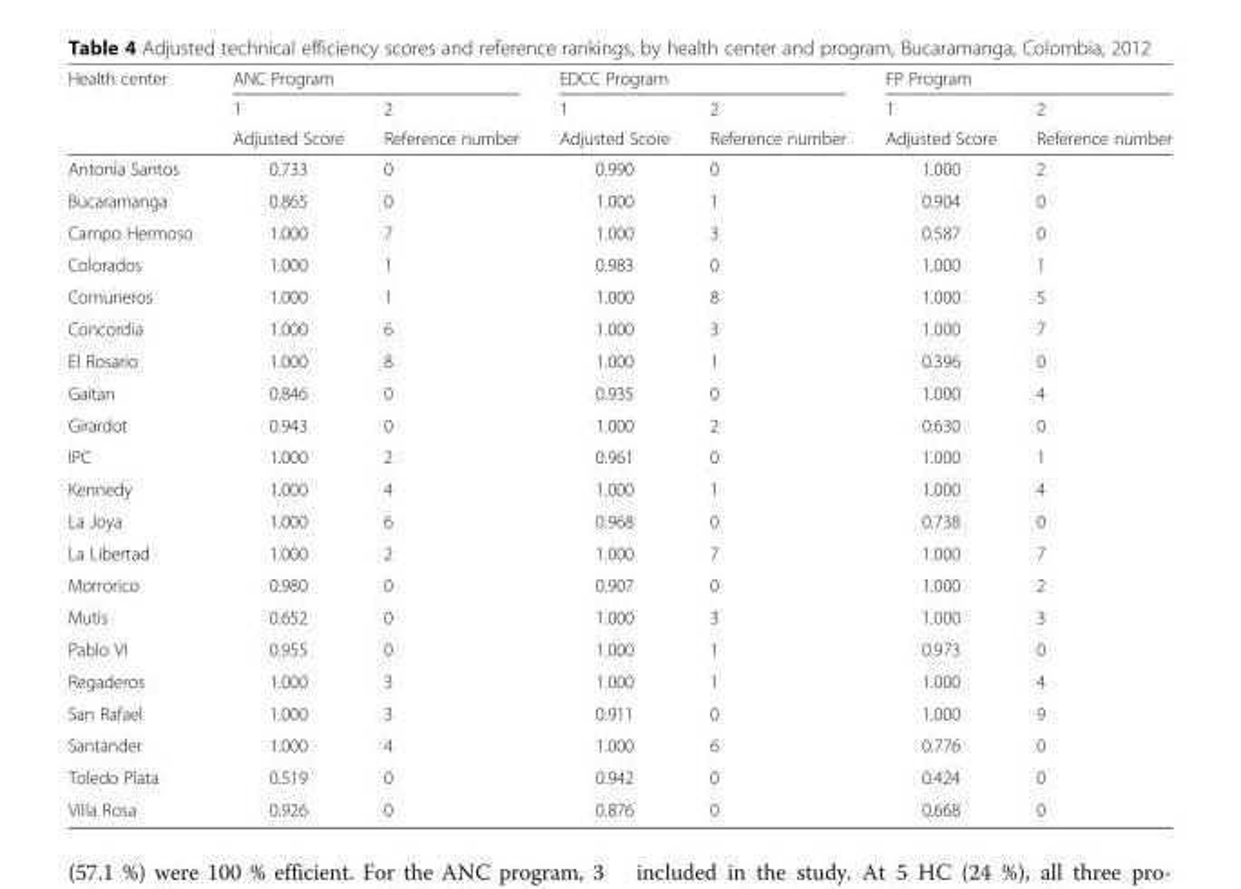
<table><thead><tr><td rowspan="3">Health center</td><td colspan="2">ANC Program</td><td colspan="2">EDCC Program</td><td colspan="2">FP Program</td></tr><tr><td rowspan="2">1 Adjusted Score</td><td rowspan="2">2 Reference number</td><td rowspan="2">1 Adjusted Score</td><td rowspan="2">2 Reference number</td><td rowspan="2">1 Adjusted Score</td><td rowspan="2">2 Reference number</td></tr><tr></tr></thead><tbody><tr><td>Antonia Santos</td><td>0.733</td><td>0</td><td>0.990</td><td>0</td><td>1.000</td><td>2</td></tr><tr><td>Bucaramanga</td><td>0.865</td><td>0</td><td>1.000</td><td>1</td><td>0.904</td><td>0</td></tr><tr><td>Campo Hermoso</td><td>1.000</td><td>7</td><td>1.000</td><td>3</td><td>0.587</td><td>0</td></tr><tr><td>Colorados</td><td>1.000</td><td>1</td><td>0.983</td><td>0</td><td>1.000</td><td>1</td></tr><tr><td>Comuneros</td><td>1.000</td><td>1</td><td>1.000</td><td>8</td><td>1.000</td><td>5</td></tr><tr><td>Concordia</td><td>1.000</td><td>6</td><td>1.000</td><td>3</td><td>1.000</td><td>7</td></tr><tr><td>El Rosario</td><td>1.000</td><td>8</td><td>1.000</td><td>1</td><td>0.396</td><td>0</td></tr><tr><td>Gaitan</td><td>0.846</td><td>0</td><td>0.935</td><td>0</td><td>1.000</td><td>4</td></tr><tr><td>Girardot</td><td>0.943</td><td>0</td><td>1.000</td><td>2</td><td>0.630</td><td>0</td></tr><tr><td>IPC</td><td>1.000</td><td>2</td><td>0.961</td><td>0</td><td>1.000</td><td>1</td></tr><tr><td>Kennedy</td><td>1.000</td><td>4</td><td>1.000</td><td>1</td><td>1.000</td><td>4</td></tr><tr><td>La Joya</td><td>1.000</td><td>6</td><td>0.968</td><td>0</td><td>0.738</td><td>0</td></tr><tr><td>La Libertad</td><td>1.000</td><td>2</td><td>1.000</td><td>7</td><td>1.000</td><td>7</td></tr><tr><td>Morrorico</td><td>0.980</td><td>0</td><td>0.907</td><td>0</td><td>1.000</td><td>2</td></tr><tr><td>Mutis</td><td>0.652</td><td>0</td><td>1.000</td><td>3</td><td>1.000</td><td>3</td></tr><tr><td>Pablo VI</td><td>0.955</td><td>0</td><td>1.000</td><td>1</td><td>0.973</td><td>0</td></tr><tr><td>Regaderos</td><td>1.000</td><td>3</td><td>1.000</td><td>1</td><td>1.000</td><td>4</td></tr><tr><td>San Rafael</td><td>1.000</td><td>3</td><td>0.911</td><td>0</td><td>1.000</td><td>9</td></tr><tr><td>Santander</td><td>1.000</td><td>4</td><td>1.000</td><td>6</td><td>0.776</td><td>0</td></tr><tr><td>Toledo Plata</td><td>0.519</td><td>0</td><td>0.942</td><td>0</td><td>0.424</td><td>0</td></tr><tr><td>Villa Rosa</td><td>0.926</td><td>0</td><td>0.876</td><td>0</td><td>0.668</td><td>0</td></tr></tbody></table>